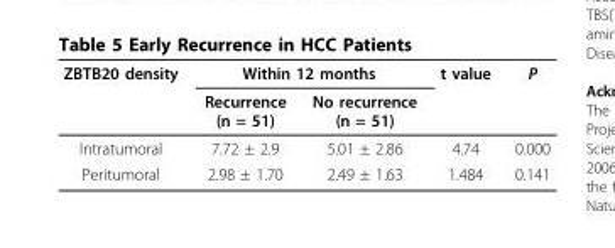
<table><thead><tr><td rowspan="2">ZBTB20 density</td><td colspan="2">Within 12 months</td><td rowspan="2">t value</td><td rowspan="2">P</td></tr><tr><td>Recurrence (n = 51)</td><td>No recurrence (n = 51)</td></tr></thead><tbody><tr><td>Intratumoral</td><td>7.72 ± 2.9</td><td>5.01 ± 2.86</td><td>4.74</td><td>0.000</td></tr><tr><td>Peritumoral</td><td>2.98 ± 1.70</td><td>2.49 ± 1.63</td><td>1.484</td><td>0.141</td></tr></tbody></table>